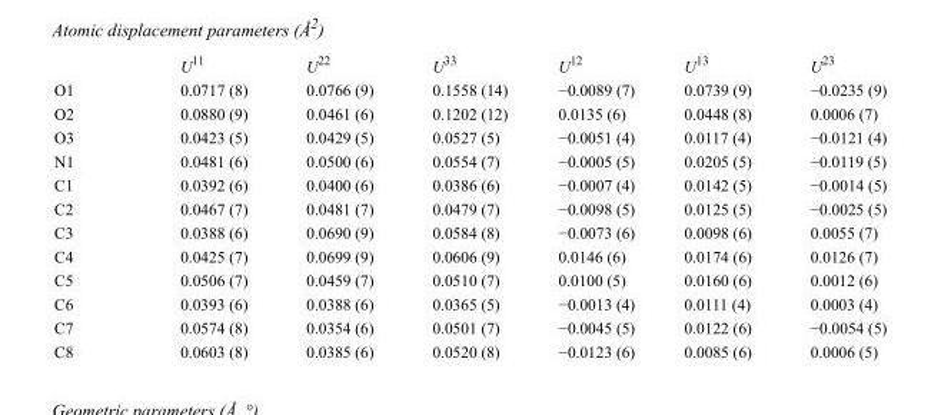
<table><thead><tr><td></td><td>U<sup>11</sup></td><td>U<sup>22</sup></td><td>U<sup>33</sup></td><td>U<sup>12</sup></td><td>U<sup>13</sup></td><td>U<sup>23</sup></td></tr></thead><tbody><tr><td>O1</td><td>0.0717 (8)</td><td>0.0766 (9)</td><td>0.1558 (14)</td><td>−0.0089 (7)</td><td>0.0739 (9)</td><td>−0.0235 (9)</td></tr><tr><td>O2</td><td>0.0880 (9)</td><td>0.0461 (6)</td><td>0.1202 (12)</td><td>0.0135 (6)</td><td>0.0448 (8)</td><td>0.0006 (7)</td></tr><tr><td>O3</td><td>0.0423 (5)</td><td>0.0429 (5)</td><td>0.0527 (5)</td><td>−0.0051 (4)</td><td>0.0117 (4)</td><td>−0.0121 (4)</td></tr><tr><td>N1</td><td>0.0481 (6)</td><td>0.0500 (6)</td><td>0.0554 (7)</td><td>−0.0005 (5)</td><td>0.0205 (5)</td><td>−0.0119 (5)</td></tr><tr><td>C1</td><td>0.0392 (6)</td><td>0.0400 (6)</td><td>0.0386 (6)</td><td>−0.0007 (4)</td><td>0.0142 (5)</td><td>−0.0014 (5)</td></tr><tr><td>C2</td><td>0.0467 (7)</td><td>0.0481 (7)</td><td>0.0479 (7)</td><td>−0.0098 (5)</td><td>0.0125 (5)</td><td>−0.0025 (5)</td></tr><tr><td>C3</td><td>0.0388 (6)</td><td>0.0690 (9)</td><td>0.0584 (8)</td><td>−0.0073 (6)</td><td>0.0098 (6)</td><td>0.0055 (7)</td></tr><tr><td>C4</td><td>0.0425 (7)</td><td>0.0699 (9)</td><td>0.0606 (9)</td><td>0.0146 (6)</td><td>0.0174 (6)</td><td>0.0126 (7)</td></tr><tr><td>C5</td><td>0.0506 (7)</td><td>0.0459 (7)</td><td>0.0510 (7)</td><td>0.0100 (5)</td><td>0.0160 (6)</td><td>0.0012 (6)</td></tr><tr><td>C6</td><td>0.0393 (6)</td><td>0.0388 (6)</td><td>0.0365 (5)</td><td>−0.0013 (4)</td><td>0.0111 (4)</td><td>0.0003 (4)</td></tr><tr><td>C7</td><td>0.0574 (8)</td><td>0.0354 (6)</td><td>0.0501 (7)</td><td>−0.0045 (5)</td><td>0.0122 (6)</td><td>−0.0054 (5)</td></tr><tr><td>C8</td><td>0.0603 (8)</td><td>0.0385 (6)</td><td>0.0520 (8)</td><td>−0.0123 (6)</td><td>0.0085 (6)</td><td>0.0006 (5)</td></tr></tbody></table>